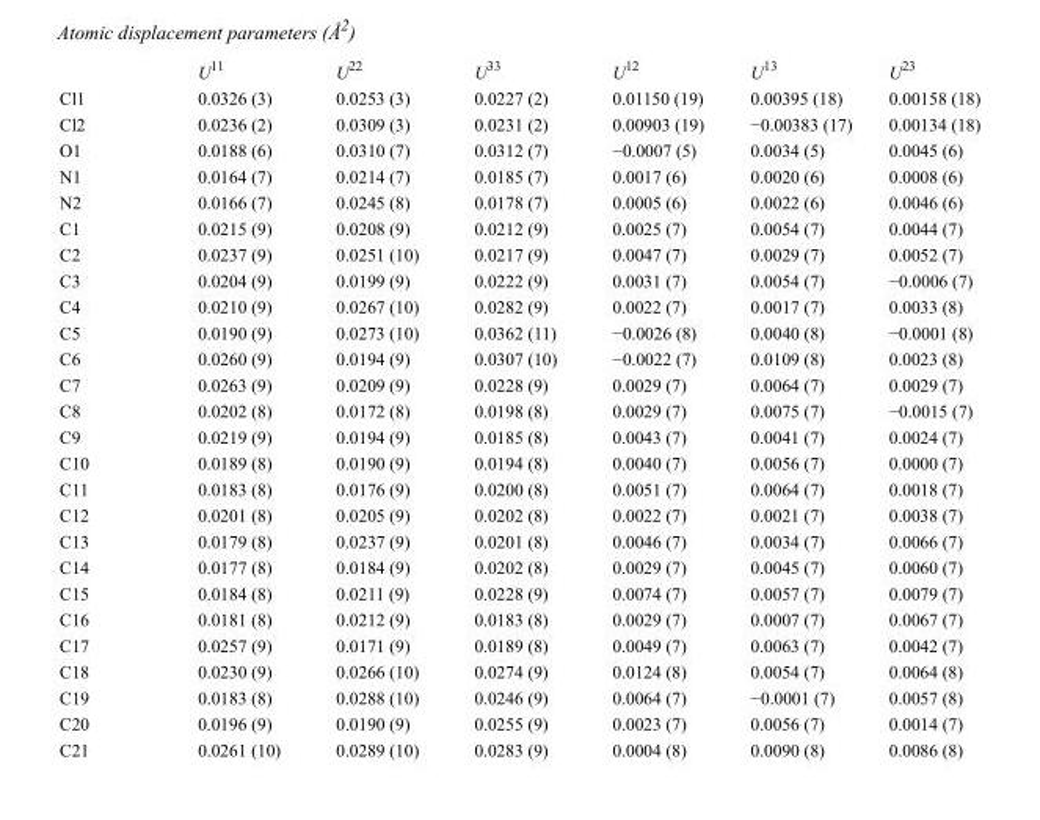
<table><thead><tr><td></td><td>U<sup>11</sup></td><td>U<sup>22</sup></td><td>U<sup>33</sup></td><td>U<sup>12</sup></td><td>U<sup>13</sup></td><td>U<sup>23</sup></td></tr></thead><tbody><tr><td>Cl1</td><td>0.0326 (3)</td><td>0.0253 (3)</td><td>0.0227 (2)</td><td>0.01150 (19)</td><td>0.00395 (18)</td><td>0.00158 (18)</td></tr><tr><td>Cl2</td><td>0.0236 (2)</td><td>0.0309 (3)</td><td>0.0231 (2)</td><td>0.00903 (19)</td><td>−0.00383 (17)</td><td>0.00134 (18)</td></tr><tr><td>O1</td><td>0.0188 (6)</td><td>0.0310 (7)</td><td>0.0312 (7)</td><td>−0.0007 (5)</td><td>0.0034 (5)</td><td>0.0045 (6)</td></tr><tr><td>N1</td><td>0.0164 (7)</td><td>0.0214 (7)</td><td>0.0185 (7)</td><td>0.0017 (6)</td><td>0.0020 (6)</td><td>0.0008 (6)</td></tr><tr><td>N2</td><td>0.0166 (7)</td><td>0.0245 (8)</td><td>0.0178 (7)</td><td>0.0005 (6)</td><td>0.0022 (6)</td><td>0.0046 (6)</td></tr><tr><td>C1</td><td>0.0215 (9)</td><td>0.0208 (9)</td><td>0.0212 (9)</td><td>0.0025 (7)</td><td>0.0054 (7)</td><td>0.0044 (7)</td></tr><tr><td>C2</td><td>0.0237 (9)</td><td>0.0251 (10)</td><td>0.0217 (9)</td><td>0.0047 (7)</td><td>0.0029 (7)</td><td>0.0052 (7)</td></tr><tr><td>C3</td><td>0.0204 (9)</td><td>0.0199 (9)</td><td>0.0222 (9)</td><td>0.0031 (7)</td><td>0.0054 (7)</td><td>−0.0006 (7)</td></tr><tr><td>C4</td><td>0.0210 (9)</td><td>0.0267 (10)</td><td>0.0282 (9)</td><td>0.0022 (7)</td><td>0.0017 (7)</td><td>0.0033 (8)</td></tr><tr><td>C5</td><td>0.0190 (9)</td><td>0.0273 (10)</td><td>0.0362 (11)</td><td>−0.0026 (8)</td><td>0.0040 (8)</td><td>−0.0001 (8)</td></tr><tr><td>C6</td><td>0.0260 (9)</td><td>0.0194 (9)</td><td>0.0307 (10)</td><td>−0.0022 (7)</td><td>0.0109 (8)</td><td>0.0023 (8)</td></tr><tr><td>C7</td><td>0.0263 (9)</td><td>0.0209 (9)</td><td>0.0228 (9)</td><td>0.0029 (7)</td><td>0.0064 (7)</td><td>0.0029 (7)</td></tr><tr><td>C8</td><td>0.0202 (8)</td><td>0.0172 (8)</td><td>0.0198 (8)</td><td>0.0029 (7)</td><td>0.0075 (7)</td><td>−0.0015 (7)</td></tr><tr><td>C9</td><td>0.0219 (9)</td><td>0.0194 (9)</td><td>0.0185 (8)</td><td>0.0043 (7)</td><td>0.0041 (7)</td><td>0.0024 (7)</td></tr><tr><td>C10</td><td>0.0189 (8)</td><td>0.0190 (9)</td><td>0.0194 (8)</td><td>0.0040 (7)</td><td>0.0056 (7)</td><td>0.0000 (7)</td></tr><tr><td>C11</td><td>0.0183 (8)</td><td>0.0176 (9)</td><td>0.0200 (8)</td><td>0.0051 (7)</td><td>0.0064 (7)</td><td>0.0018 (7)</td></tr><tr><td>C12</td><td>0.0201 (8)</td><td>0.0205 (9)</td><td>0.0202 (8)</td><td>0.0022 (7)</td><td>0.0021 (7)</td><td>0.0038 (7)</td></tr><tr><td>C13</td><td>0.0179 (8)</td><td>0.0237 (9)</td><td>0.0201 (8)</td><td>0.0046 (7)</td><td>0.0034 (7)</td><td>0.0066 (7)</td></tr><tr><td>C14</td><td>0.0177 (8)</td><td>0.0184 (9)</td><td>0.0202 (8)</td><td>0.0029 (7)</td><td>0.0045 (7)</td><td>0.0060 (7)</td></tr><tr><td>C15</td><td>0.0184 (8)</td><td>0.0211 (9)</td><td>0.0228 (9)</td><td>0.0074 (7)</td><td>0.0057 (7)</td><td>0.0079 (7)</td></tr><tr><td>C16</td><td>0.0181 (8)</td><td>0.0212 (9)</td><td>0.0183 (8)</td><td>0.0029 (7)</td><td>0.0007 (7)</td><td>0.0067 (7)</td></tr><tr><td>C17</td><td>0.0257 (9)</td><td>0.0171 (9)</td><td>0.0189 (8)</td><td>0.0049 (7)</td><td>0.0063 (7)</td><td>0.0042 (7)</td></tr><tr><td>C18</td><td>0.0230 (9)</td><td>0.0266 (10)</td><td>0.0274 (9)</td><td>0.0124 (8)</td><td>0.0054 (7)</td><td>0.0064 (8)</td></tr><tr><td>C19</td><td>0.0183 (8)</td><td>0.0288 (10)</td><td>0.0246 (9)</td><td>0.0064 (7)</td><td>−0.0001 (7)</td><td>0.0057 (8)</td></tr><tr><td>C20</td><td>0.0196 (9)</td><td>0.0190 (9)</td><td>0.0255 (9)</td><td>0.0023 (7)</td><td>0.0056 (7)</td><td>0.0014 (7)</td></tr><tr><td>C21</td><td>0.0261 (10)</td><td>0.0289 (10)</td><td>0.0283 (9)</td><td>0.0004 (8)</td><td>0.0090 (8)</td><td>0.0086 (8)</td></tr></tbody></table>